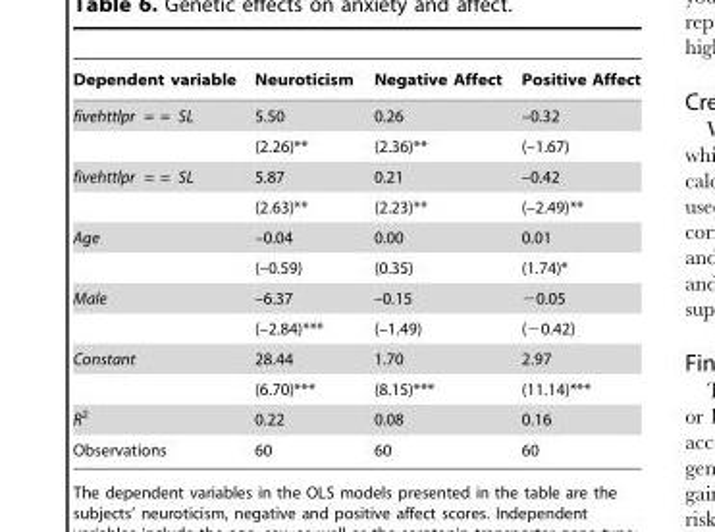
<table><thead><tr><td>Dependent variable</td><td>Neuroticism</td><td>Negative Affect</td><td>Positive Affect</td></tr></thead><tbody><tr><td rowspan="2">fivehttlpr = = SL</td><td>5.50</td><td>0.26</td><td>–0.32</td></tr><tr><td>(2.26)**</td><td>(2.36)**</td><td>(–1.67)</td></tr><tr><td rowspan="2">fivehttlpr = = SL</td><td>5.87</td><td>0.21</td><td>–0.42</td></tr><tr><td>(2.63)**</td><td>(2.23)**</td><td>(–2.49)**</td></tr><tr><td rowspan="2">Age</td><td>–0.04</td><td>0.00</td><td>0.01</td></tr><tr><td>(–0.59)</td><td>(0.35)</td><td>(1.74)*</td></tr><tr><td rowspan="2">Male</td><td>–6.37</td><td>–0.15</td><td>−0.05</td></tr><tr><td>(–2.84)***</td><td>(–1.49)</td><td>(−0.42)</td></tr><tr><td rowspan="2">Constant</td><td>28.44</td><td>1.70</td><td>2.97</td></tr><tr><td>(6.70)***</td><td>(8.15)***</td><td>(11.14)***</td></tr><tr><td>R<sup>2</sup></td><td>0.22</td><td>0.08</td><td>0.16</td></tr><tr><td>Observations</td><td>60</td><td>60</td><td>60</td></tr></tbody></table>